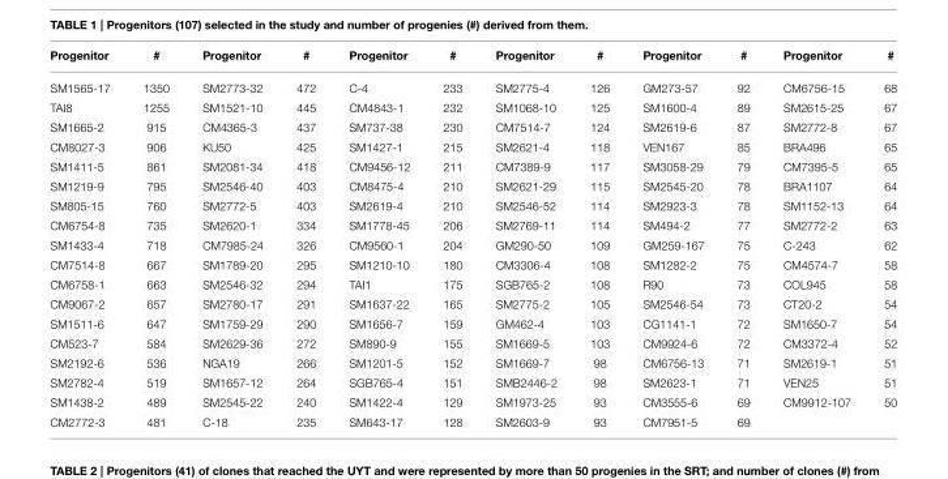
<table><thead><tr><td>Progenitor</td><td>#</td><td>Progenitor</td><td>#</td><td>Progenitor</td><td>#</td><td>Progenitor</td><td>#</td><td>Progenitor</td><td>#</td><td>Progenitor</td><td>#</td></tr></thead><tbody><tr><td>SM1565-17</td><td>1350</td><td>SM2773-32</td><td>472</td><td>C-4</td><td>233</td><td>SM2775-4</td><td>126</td><td>GM273-57</td><td>92</td><td>CM6756-15</td><td>68</td></tr><tr><td>TAI8</td><td>1255</td><td>SM1521-10</td><td>445</td><td>CM4843-1</td><td>232</td><td>SM1068-10</td><td>125</td><td>SM1600-4</td><td>89</td><td>SM2615-25</td><td>67</td></tr><tr><td>SM1665-2</td><td>915</td><td>CM4365-3</td><td>437</td><td>SM737-38</td><td>230</td><td>CM7514-7</td><td>124</td><td>SM2619-6</td><td>87</td><td>SM2772-8</td><td>67</td></tr><tr><td>CM8027-3</td><td>906</td><td>KU50</td><td>425</td><td>SM1427-1</td><td>215</td><td>SM2621-4</td><td>118</td><td>VEN167</td><td>85</td><td>BRA496</td><td>65</td></tr><tr><td>SM1411-5</td><td>861</td><td>SM2081-34</td><td>418</td><td>CM9456-12</td><td>211</td><td>CM7389-9</td><td>117</td><td>SM3058-29</td><td>79</td><td>CM7395-5</td><td>65</td></tr><tr><td>SM1219-9</td><td>795</td><td>SM2546-40</td><td>403</td><td>CM8475-4</td><td>210</td><td>SM2621-29</td><td>115</td><td>SM2545-20</td><td>78</td><td>BRA1107</td><td>64</td></tr><tr><td>SM805-15</td><td>760</td><td>SM2772-5</td><td>403</td><td>SM2619-4</td><td>210</td><td>SM2546-52</td><td>114</td><td>SM2923-3</td><td>78</td><td>SM1152-13</td><td>64</td></tr><tr><td>CM6754-8</td><td>735</td><td>SM2620-1</td><td>334</td><td>SM1778-45</td><td>206</td><td>SM2769-11</td><td>114</td><td>SM494-2</td><td>77</td><td>SM2772-2</td><td>63</td></tr><tr><td>SM1433-4</td><td>718</td><td>CM7985-24</td><td>326</td><td>CM9560-1</td><td>204</td><td>GM290-50</td><td>109</td><td>GM259-167</td><td>75</td><td>C-243</td><td>62</td></tr><tr><td>CM7514-8</td><td>667</td><td>SM1789-20</td><td>295</td><td>SM1210-10</td><td>180</td><td>CM3306-4</td><td>108</td><td>SM1282-2</td><td>75</td><td>CM4574-7</td><td>58</td></tr><tr><td>CM6758-1</td><td>663</td><td>SM2546-32</td><td>294</td><td>TAI1</td><td>175</td><td>SGB765-2</td><td>108</td><td>R90</td><td>73</td><td>COL945</td><td>58</td></tr><tr><td>CM9067-2</td><td>657</td><td>SM2780-17</td><td>291</td><td>SM1637-22</td><td>165</td><td>SM2775-2</td><td>105</td><td>SM2546-54</td><td>73</td><td>CT20-2</td><td>54</td></tr><tr><td>SM1511-6</td><td>647</td><td>SM1759-29</td><td>290</td><td>SM1656-7</td><td>159</td><td>GM462-4</td><td>103</td><td>CG1141-1</td><td>72</td><td>SM1650-7</td><td>54</td></tr><tr><td>CM523-7</td><td>584</td><td>SM2629-36</td><td>272</td><td>SM890-9</td><td>155</td><td>SM1669-5</td><td>103</td><td>CM9924-6</td><td>72</td><td>CM3372-4</td><td>52</td></tr><tr><td>SM2192-6</td><td>536</td><td>NGA19</td><td>266</td><td>SM1201-5</td><td>152</td><td>SM1669-7</td><td>98</td><td>CM6756-13</td><td>71</td><td>SM2619-1</td><td>51</td></tr><tr><td>SM2782-4</td><td>519</td><td>SM1657-12</td><td>264</td><td>SGB765-4</td><td>151</td><td>SMB2446-2</td><td>98</td><td>SM2623-1</td><td>71</td><td>VEN25</td><td>51</td></tr><tr><td>SM1438-2</td><td>489</td><td>SM2545-22</td><td>240</td><td>SM1422-4</td><td>129</td><td>SM1973-25</td><td>93</td><td>CM3555-6</td><td>69</td><td>CM9912-107</td><td>50</td></tr><tr><td>CM2772-3</td><td>481</td><td>C-18</td><td>235</td><td>SM643-17</td><td>128</td><td>SM2603-9</td><td>93</td><td>CM7951-5</td><td>69</td><td></td><td></td></tr></tbody></table>